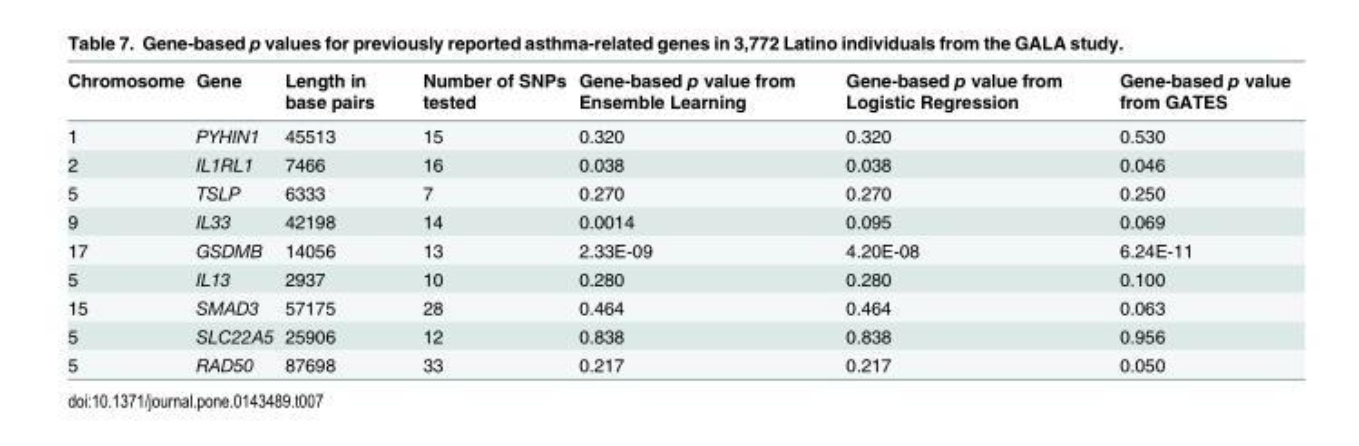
<table><thead><tr><td>Chromosome</td><td>Gene</td><td>Length in base pairs</td><td>Number of SNPs tested</td><td>Gene-based p value from Ensemble Learning</td><td>Gene-based p value from Logistic Regression</td><td>Gene-based p value from GATES</td></tr></thead><tbody><tr><td>1</td><td>PYHIN1</td><td>45513</td><td>15</td><td>0.320</td><td>0.320</td><td>0.530</td></tr><tr><td>2</td><td>IL1RL1</td><td>7466</td><td>16</td><td>0.038</td><td>0.038</td><td>0.046</td></tr><tr><td>5</td><td>TSLP</td><td>6333</td><td>7</td><td>0.270</td><td>0.270</td><td>0.250</td></tr><tr><td>9</td><td>IL33</td><td>42198</td><td>14</td><td>0.0014</td><td>0.095</td><td>0.069</td></tr><tr><td>17</td><td>GSDMB</td><td>14056</td><td>13</td><td>2.33E-09</td><td>4.20E-08</td><td>6.24E-11</td></tr><tr><td>5</td><td>IL13</td><td>2937</td><td>10</td><td>0.280</td><td>0.280</td><td>0.100</td></tr><tr><td>15</td><td>SMAD3</td><td>57175</td><td>28</td><td>0.464</td><td>0.464</td><td>0.063</td></tr><tr><td>5</td><td>SLC22A5</td><td>25906</td><td>12</td><td>0.838</td><td>0.838</td><td>0.956</td></tr><tr><td>5</td><td>RAD50</td><td>87698</td><td>33</td><td>0.217</td><td>0.217</td><td>0.050</td></tr></tbody></table>